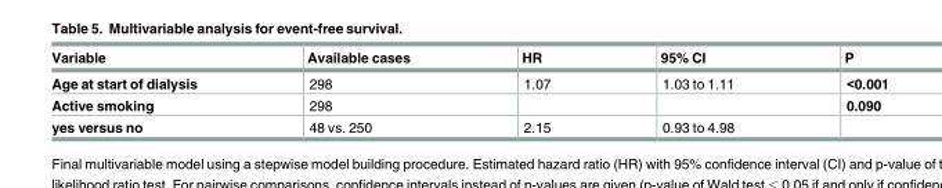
<table><thead><tr><td>Variable</td><td>Available cases</td><td>HR</td><td>95% CI</td><td>P</td></tr></thead><tbody><tr><td>Age at start of dialysis</td><td>298</td><td>1.07</td><td>1.03 to 1.11</td><td>&lt;0.001</td></tr><tr><td>Active smoking</td><td>298</td><td></td><td></td><td>0.090</td></tr><tr><td>yes versus no</td><td>48 vs. 250</td><td>2.15</td><td>0.93 to 4.98</td><td></td></tr></tbody></table>